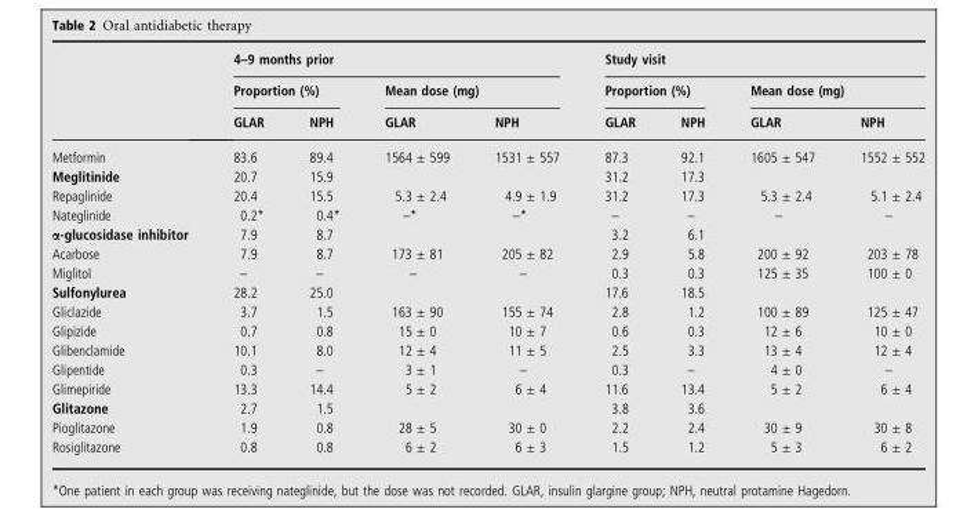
<table><thead><tr><td rowspan="3"></td><td colspan="4">4–9 months prior</td><td colspan="4">Study visit</td></tr><tr><td colspan="2">Proportion (%)</td><td colspan="2">Mean dose (mg)</td><td colspan="2">Proportion (%)</td><td colspan="2">Mean dose (mg)</td></tr><tr><td>GLAR</td><td>NPH</td><td>GLAR</td><td>NPH</td><td>GLAR</td><td>NPH</td><td>GLAR</td><td>NPH</td></tr></thead><tbody><tr><td>Metformin</td><td>83.6</td><td>89.4</td><td>1564 ± 599</td><td>1531 ± 557</td><td>87.3</td><td>92.1</td><td>1605 ± 547</td><td>1552 ± 552</td></tr><tr><td>Meglitinide</td><td>20.7</td><td>15.9</td><td></td><td></td><td>31.2</td><td>17.3</td><td></td><td></td></tr><tr><td>Repaglinide</td><td>20.4</td><td>15.5</td><td>5.3 ± 2.4</td><td>4.9 ± 1.9</td><td>31.2</td><td>17.3</td><td>5.3 ± 2.4</td><td>5.1 ± 2.4</td></tr><tr><td>Nateglinide</td><td>0.2*</td><td>0.4*</td><td>–*</td><td>–*</td><td>–</td><td>–</td><td>–</td><td>–</td></tr><tr><td>α-glucosidase inhibitor</td><td>7.9</td><td>8.7</td><td></td><td></td><td>3.2</td><td>6.1</td><td></td><td></td></tr><tr><td>Acarbose</td><td>7.9</td><td>8.7</td><td>173 ± 81</td><td>205 ± 82</td><td>2.9</td><td>5.8</td><td>200 ± 92</td><td>203 ± 78</td></tr><tr><td>Miglitol</td><td>–</td><td>–</td><td>–</td><td>–</td><td>0.3</td><td>0.3</td><td>125 ± 35</td><td>100 ± 0</td></tr><tr><td>Sulfonylurea</td><td>28.2</td><td>25.0</td><td></td><td></td><td>17.6</td><td>18.5</td><td></td><td></td></tr><tr><td>Gliclazide</td><td>3.7</td><td>1.5</td><td>163 ± 90</td><td>155 ± 74</td><td>2.8</td><td>1.2</td><td>100 ± 89</td><td>125 ± 47</td></tr><tr><td>Glipizide</td><td>0.7</td><td>0.8</td><td>15 ± 0</td><td>10 ± 7</td><td>0.6</td><td>0.3</td><td>12 ± 6</td><td>10 ± 0</td></tr><tr><td>Glibenclamide</td><td>10.1</td><td>8.0</td><td>12 ± 4</td><td>11 ± 5</td><td>2.5</td><td>3.3</td><td>13 ± 4</td><td>12 ± 4</td></tr><tr><td>Glipentide</td><td>0.3</td><td>–</td><td>3 ± 1</td><td>–</td><td>0.3</td><td>–</td><td>4 ± 0</td><td>–</td></tr><tr><td>Glimepiride</td><td>13.3</td><td>14.4</td><td>5 ± 2</td><td>6 ± 4</td><td>11.6</td><td>13.4</td><td>5 ± 2</td><td>6 ± 4</td></tr><tr><td>Glitazone</td><td>2.7</td><td>1.5</td><td></td><td></td><td>3.8</td><td>3.6</td><td></td><td></td></tr><tr><td>Pioglitazone</td><td>1.9</td><td>0.8</td><td>28 ± 5</td><td>30 ± 0</td><td>2.2</td><td>2.4</td><td>30 ± 9</td><td>30 ± 8</td></tr><tr><td>Rosiglitazone</td><td>0.8</td><td>0.8</td><td>6 ± 2</td><td>6 ± 3</td><td>1.5</td><td>1.2</td><td>5 ± 3</td><td>6 ± 2</td></tr></tbody></table>